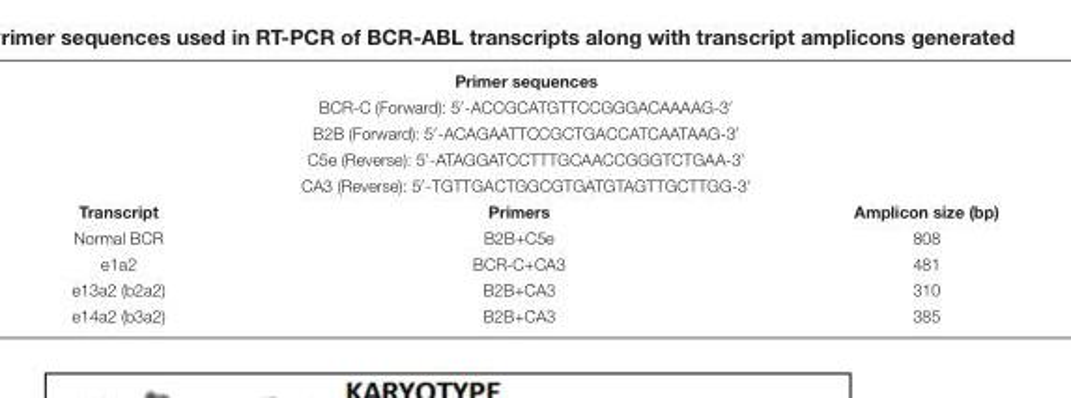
<table><tbody><tr><td colspan="3">Primer sequences</td></tr><tr><td colspan="3">BCR-C (Forward): 5′-ACCGCATGTTCCGGGACAAAAG-3′</td></tr><tr><td colspan="3">B2B (Forward): 5′-ACAGAATTCCGCTGACCATCAATAAG-3′</td></tr><tr><td colspan="3">C5e (Reverse): 5′-ATAGGATCCTTTGCAACCGGGTCTGAA-3′</td></tr><tr><td colspan="3">CA3 (Reverse): 5′-TGTTGACTGGCGTGATGTAGTTGCTTGG-3′</td></tr><tr><td>Transcript</td><td>Primers</td><td>Amplicon size (bp)</td></tr><tr><td>Normal BCR</td><td>B2B+C5e</td><td>808</td></tr><tr><td>e1a2</td><td>BCR-C+CA3</td><td>481</td></tr><tr><td>e13a2 (b2a2)</td><td>B2B+CA3</td><td>310</td></tr><tr><td>e14a2 (b3a2)</td><td>B2B+CA3</td><td>385</td></tr></tbody></table>